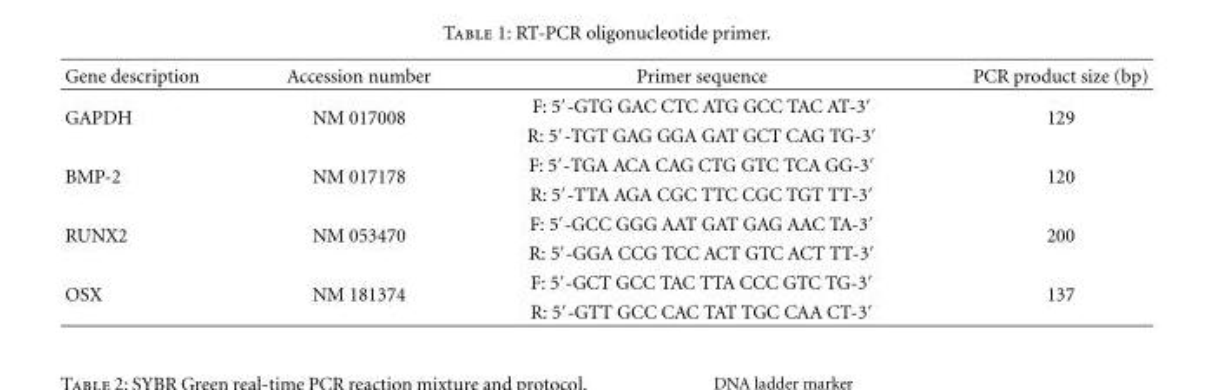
<table><thead><tr><td>Gene description</td><td>Accession number</td><td>Primer sequence</td><td>PCR product size (bp)</td></tr></thead><tbody><tr><td rowspan="2">GAPDH</td><td rowspan="2">NM 017008</td><td>F: 5′-GTG GAC CTC ATG GCC TAC AT-3′</td><td rowspan="2">129</td></tr><tr><td>R: 5′-TGT GAG GGA GAT GCT CAG TG-3′</td></tr><tr><td rowspan="2">BMP-2</td><td rowspan="2">NM 017178</td><td>F: 5′-TGA ACA CAG CTG GTC TCA GG-3′</td><td rowspan="2">120</td></tr><tr><td>R: 5′-TTA AGA CGC TTC CGC TGT TT-3′</td></tr><tr><td rowspan="2">RUNX2</td><td rowspan="2">NM 053470</td><td>F: 5′-GCC GGG AAT GAT GAG AAC TA-3′</td><td rowspan="2">200</td></tr><tr><td>R: 5′-GGA CCG TCC ACT GTC ACT TT-3′</td></tr><tr><td rowspan="2">OSX</td><td rowspan="2">NM 181374</td><td>F: 5′-GCT GCC TAC TTA CCC GTC TG-3′</td><td rowspan="2">137</td></tr><tr><td>R: 5′-GTT GCC CAC TAT TGC CAA CT-3′</td></tr></tbody></table>